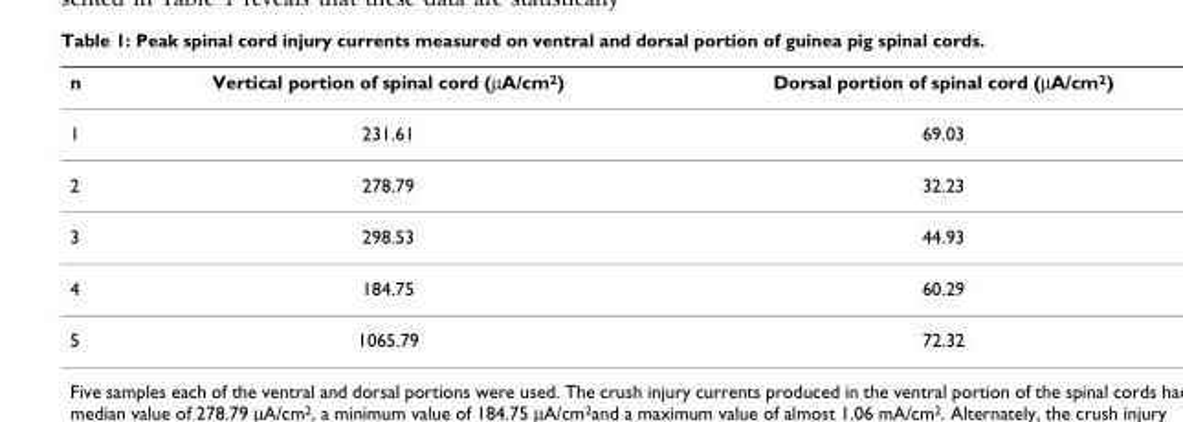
<table><thead><tr><td>n</td><td>Vertical portion of spinal cord (μA/cm<sup>2</sup>)</td><td>Dorsal portion of spinal cord (μA/cm<sup>2</sup>)</td></tr></thead><tbody><tr><td>1</td><td>231.61</td><td>69.03</td></tr><tr><td>2</td><td>278.79</td><td>32.23</td></tr><tr><td>3</td><td>298.53</td><td>44.93</td></tr><tr><td>4</td><td>184.75</td><td>60.29</td></tr><tr><td>5</td><td>1065.79</td><td>72.32</td></tr></tbody></table>